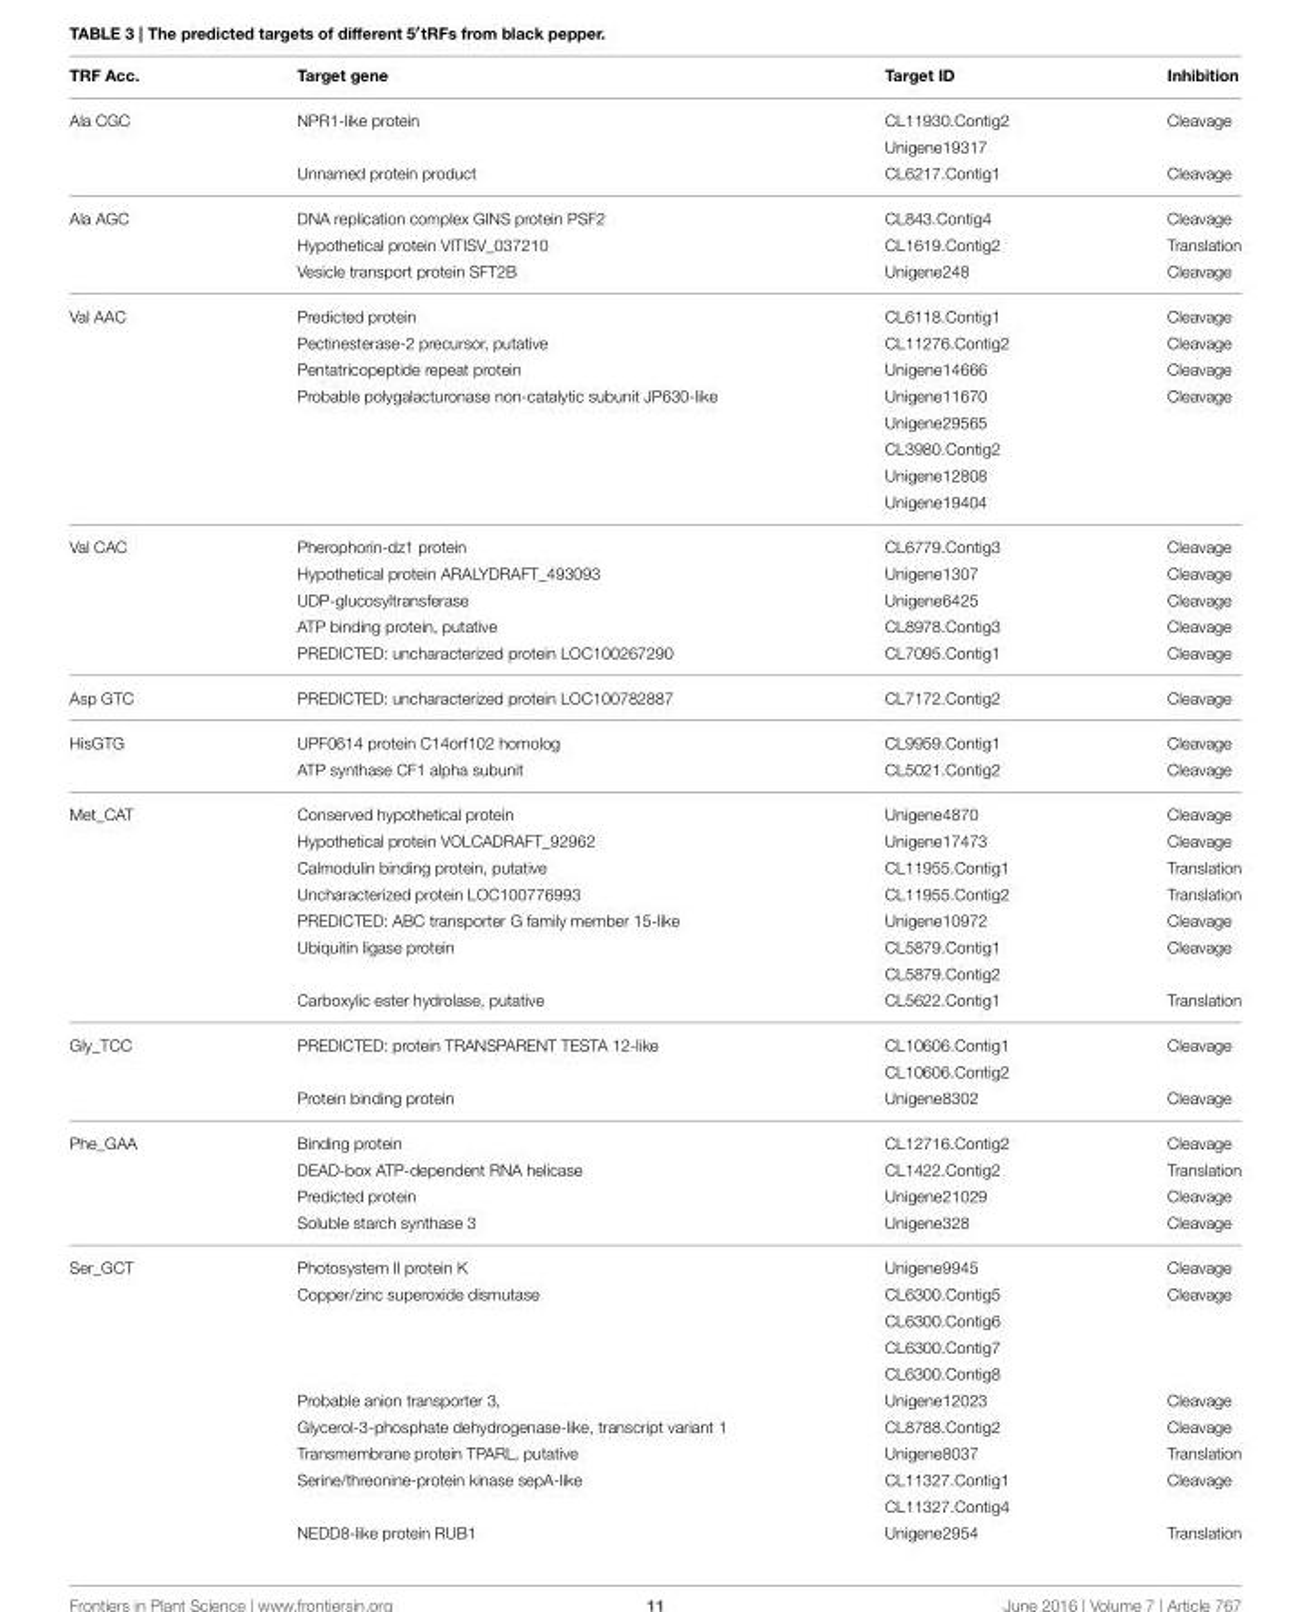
<table><thead><tr><td>TRF Acc.</td><td>Target gene</td><td>Target ID</td><td>Inhibition</td></tr></thead><tbody><tr><td rowspan="3">Ala CGC</td><td>NPR1-like protein</td><td>CL11930.Contig2</td><td>Cleavage</td></tr><tr><td></td><td>Unigene19317</td><td></td></tr><tr><td>Unnamed protein product</td><td>CL6217.Contig1</td><td>Cleavage</td></tr><tr><td rowspan="3">Ala AGC</td><td>DNA replication complex GINS protein PSF2</td><td>CL843.Contig4</td><td>Cleavage</td></tr><tr><td>Hypothetical protein VITISV_037210</td><td>CL1619.Contig2</td><td>Translation</td></tr><tr><td>Vesicle transport protein SFT2B</td><td>Unigene248</td><td>Cleavage</td></tr><tr><td rowspan="8">Val AAC</td><td>Predicted protein</td><td>CL6118.Contig1</td><td>Cleavage</td></tr><tr><td>Pectinesterase-2 precursor, putative</td><td>CL11276.Contig2</td><td>Cleavage</td></tr><tr><td>Pentatricopeptide repeat protein</td><td>Unigene14666</td><td>Cleavage</td></tr><tr><td>Probable polygalacturonase non-catalytic subunit JP630-like</td><td>Unigene11670</td><td>Cleavage</td></tr><tr><td></td><td>Unigene29565</td><td></td></tr><tr><td></td><td>CL3980.Contig2</td><td></td></tr><tr><td></td><td>Unigene12808</td><td></td></tr><tr><td></td><td>Unigene19404</td><td></td></tr><tr><td rowspan="5">Val CAC</td><td>Pherophorin-dz1 protein</td><td>CL6779.Contig3</td><td>Cleavage</td></tr><tr><td>Hypothetical protein ARALYDRAFT_493093</td><td>Unigene1307</td><td>Cleavage</td></tr><tr><td>UDP-glucosyltransferase</td><td>Unigene6425</td><td>Cleavage</td></tr><tr><td>ATP binding protein, putative</td><td>CL8978.Contig3</td><td>Cleavage</td></tr><tr><td>PREDICTED: uncharacterized protein LOC100267290</td><td>CL7095.Contig1</td><td>Cleavage</td></tr><tr><td>Asp GTC</td><td>PREDICTED: uncharacterized protein LOC100782887</td><td>CL7172.Contig2</td><td>Cleavage</td></tr><tr><td rowspan="2">HisGTG</td><td>UPF0614 protein C14orf102 homolog</td><td>CL9959.Contig1</td><td>Cleavage</td></tr><tr><td>ATP synthase CF1 alpha subunit</td><td>CL5021.Contig2</td><td>Cleavage</td></tr><tr><td rowspan="8">Met_CAT</td><td>Conserved hypothetical protein</td><td>Unigene4870</td><td>Cleavage</td></tr><tr><td>Hypothetical protein VOLCADRAFT_92962</td><td>Unigene17473</td><td>Cleavage</td></tr><tr><td>Calmodulin binding protein, putative</td><td>CL11955.Contig1</td><td>Translation</td></tr><tr><td>Uncharacterized protein LOC100776993</td><td>CL11955.Contig2</td><td>Translation</td></tr><tr><td>PREDICTED: ABC transporter G family member 15-like</td><td>Unigene10972</td><td>Cleavage</td></tr><tr><td>Ubiquitin ligase protein</td><td>CL5879.Contig1</td><td>Cleavage</td></tr><tr><td></td><td>CL5879.Contig2</td><td></td></tr><tr><td>Carboxylic ester hydrolase, putative</td><td>CL5622.Contig1</td><td>Translation</td></tr><tr><td rowspan="3">Gly_TCC</td><td>PREDICTED: protein TRANSPARENT TESTA 12-like</td><td>CL10606.Contig1</td><td>Cleavage</td></tr><tr><td></td><td>CL10606.Contig2</td><td></td></tr><tr><td>Protein binding protein</td><td>Unigene8302</td><td>Cleavage</td></tr><tr><td rowspan="4">Phe_GAA</td><td>Binding protein</td><td>CL12716.Contig2</td><td>Cleavage</td></tr><tr><td>DEAD-box ATP-dependent RNA helicase</td><td>CL1422.Contig2</td><td>Translation</td></tr><tr><td>Predicted protein</td><td>Unigene21029</td><td>Cleavage</td></tr><tr><td>Soluble starch synthase 3</td><td>Unigene328</td><td>Cleavage</td></tr><tr><td rowspan="11">Ser_GCT</td><td>Photosystem II protein K</td><td>Unigene9945</td><td>Cleavage</td></tr><tr><td>Copper/zinc superoxide dismutase</td><td>CL6300.Contig5</td><td>Cleavage</td></tr><tr><td></td><td>CL6300.Contig6</td><td></td></tr><tr><td></td><td>CL6300.Contig7</td><td></td></tr><tr><td></td><td>CL6300.Contig8</td><td></td></tr><tr><td>Probable anion transporter 3,</td><td>Unigene12023</td><td>Cleavage</td></tr><tr><td>Glycerol-3-phosphate dehydrogenase-like, transcript variant 1</td><td>CL8788.Contig2</td><td>Cleavage</td></tr><tr><td>Transmembrane protein TPARL, putative</td><td>Unigene8037</td><td>Translation</td></tr><tr><td>Serine/threonine-protein kinase sepA-like</td><td>CL11327.Contig1</td><td>Cleavage</td></tr><tr><td></td><td>CL11327.Contig4</td><td></td></tr><tr><td>NEDD8-like protein RUB1</td><td>Unigene2954</td><td>Translation</td></tr></tbody></table>